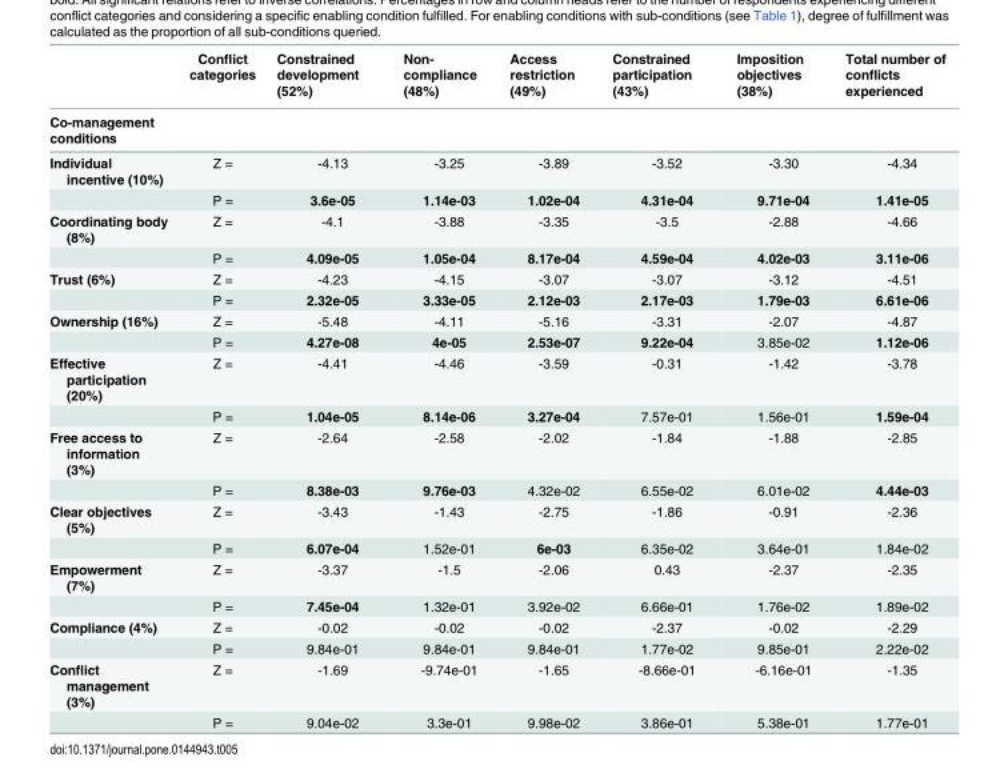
<table><thead><tr><td rowspan="2">Co-management conditions</td><td rowspan="2">Conflict categories</td><td rowspan="2">Constrained development (52%)</td><td rowspan="2">Non- compliance (48%)</td><td rowspan="2">Access restriction (49%)</td><td rowspan="2">Constrained participation (43%)</td><td rowspan="2">Imposition objectives (38%)</td><td rowspan="2">Total number of conflicts experienced</td></tr><tr></tr></thead><tbody><tr><td rowspan="2">Individual incentive (10%)</td><td>Z =</td><td>-4.13</td><td>-3.25</td><td>-3.89</td><td>-3.52</td><td>-3.30</td><td>-4.34</td></tr><tr><td>P =</td><td>3.6e-05</td><td>1.14e-03</td><td>1.02e-04</td><td>4.31e-04</td><td>9.71e-04</td><td>1.41e-05</td></tr><tr><td rowspan="2">Coordinating body (8%)</td><td>Z =</td><td>-4.1</td><td>-3.88</td><td>-3.35</td><td>-3.5</td><td>-2.88</td><td>-4.66</td></tr><tr><td>P =</td><td>4.09e-05</td><td>1.05e-04</td><td>8.17e-04</td><td>4.59e-04</td><td>4.02e-03</td><td>3.11e-06</td></tr><tr><td rowspan="2">Trust (6%)</td><td>Z =</td><td>-4.23</td><td>-4.15</td><td>-3.07</td><td>-3.07</td><td>-3.12</td><td>-4.51</td></tr><tr><td>P =</td><td>2.32e-05</td><td>3.33e-05</td><td>2.12e-03</td><td>2.17e-03</td><td>1.79e-03</td><td>6.61e-06</td></tr><tr><td rowspan="2">Ownership (16%)</td><td>Z =</td><td>-5.48</td><td>-4.11</td><td>-5.16</td><td>-3.31</td><td>-2.07</td><td>-4.87</td></tr><tr><td>P =</td><td>4.27e-08</td><td>4e-05</td><td>2.53e-07</td><td>9.22e-04</td><td>3.85e-02</td><td>1.12e-06</td></tr><tr><td rowspan="2">Effective participation (20%)</td><td>Z =</td><td>-4.41</td><td>-4.46</td><td>-3.59</td><td>-0.31</td><td>-1.42</td><td>-3.78</td></tr><tr><td>P =</td><td>1.04e-05</td><td>8.14e-06</td><td>3.27e-04</td><td>7.57e-01</td><td>1.56e-01</td><td>1.59e-04</td></tr><tr><td rowspan="2">Free access to information (3%)</td><td>Z =</td><td>-2.64</td><td>-2.58</td><td>-2.02</td><td>-1.84</td><td>-1.88</td><td>-2.85</td></tr><tr><td>P =</td><td>8.38e-03</td><td>9.76e-03</td><td>4.32e-02</td><td>6.55e-02</td><td>6.01e-02</td><td>4.44e-03</td></tr><tr><td rowspan="2">Clear objectives (5%)</td><td>Z =</td><td>-3.43</td><td>-1.43</td><td>-2.75</td><td>-1.86</td><td>-0.91</td><td>-2.36</td></tr><tr><td>P =</td><td>6.07e-04</td><td>1.52e-01</td><td>6e-03</td><td>6.35e-02</td><td>3.64e-01</td><td>1.84e-02</td></tr><tr><td rowspan="2">Empowerment (7%)</td><td>Z =</td><td>-3.37</td><td>-1.5</td><td>-2.06</td><td>0.43</td><td>-2.37</td><td>-2.35</td></tr><tr><td>P =</td><td>7.45e-04</td><td>1.32e-01</td><td>3.92e-02</td><td>6.66e-01</td><td>1.76e-02</td><td>1.89e-02</td></tr><tr><td rowspan="2">Compliance (4%)</td><td>Z =</td><td>-0.02</td><td>-0.02</td><td>-0.02</td><td>-2.37</td><td>-0.02</td><td>-2.29</td></tr><tr><td>P =</td><td>9.84e-01</td><td>9.84e-01</td><td>9.84e-01</td><td>1.77e-02</td><td>9.85e-01</td><td>2.22e-02</td></tr><tr><td rowspan="2">Conflict management (3%)</td><td>Z =</td><td>-1.69</td><td>-9.74e-01</td><td>-1.65</td><td>-8.66e-01</td><td>-6.16e-01</td><td>-1.35</td></tr><tr><td>P =</td><td>9.04e-02</td><td>3.3e-01</td><td>9.98e-02</td><td>3.86e-01</td><td>5.38e-01</td><td>1.77e-01</td></tr></tbody></table>